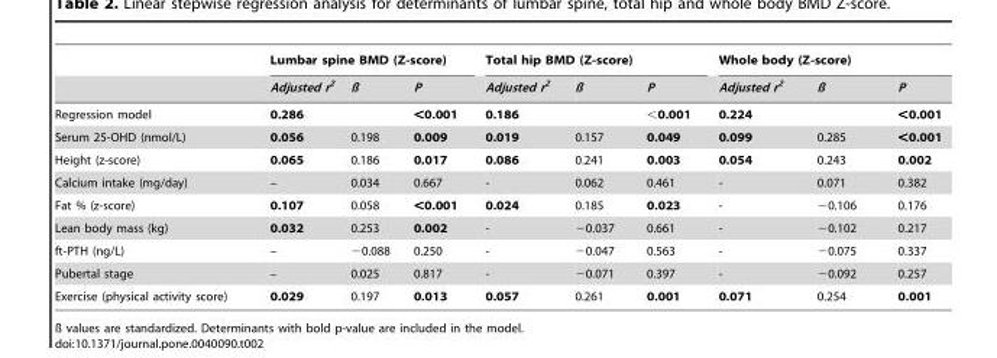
<table><thead><tr><td rowspan="2"></td><td colspan="3">Lumbar spine BMD (Z-score)</td><td colspan="3">Total hip BMD (Z-score)</td><td colspan="3">Whole body (Z-score)</td></tr><tr><td>Adjusted r<sup>2</sup></td><td>ß</td><td>P</td><td>Adjusted r<sup>2</sup></td><td>ß</td><td>P</td><td>Adjusted r<sup>2</sup></td><td>ß</td><td>P</td></tr></thead><tbody><tr><td>Regression model</td><td>0.286</td><td></td><td>&lt;0.001</td><td>0.186</td><td></td><td>&lt;0.001</td><td>0.224</td><td></td><td>&lt;0.001</td></tr><tr><td>Serum 25-OHD (nmol/L)</td><td>0.056</td><td>0.198</td><td>0.009</td><td>0.019</td><td>0.157</td><td>0.049</td><td>0.099</td><td>0.285</td><td>&lt;0.001</td></tr><tr><td>Height (z-score)</td><td>0.065</td><td>0.186</td><td>0.017</td><td>0.086</td><td>0.241</td><td>0.003</td><td>0.054</td><td>0.243</td><td>0.002</td></tr><tr><td>Calcium intake (mg/day)</td><td>–</td><td>0.034</td><td>0.667</td><td>-</td><td>0.062</td><td>0.461</td><td>-</td><td>0.071</td><td>0.382</td></tr><tr><td>Fat % (z-score)</td><td>0.107</td><td>0.058</td><td>&lt;0.001</td><td>0.024</td><td>0.185</td><td>0.023</td><td>-</td><td>−0.106</td><td>0.176</td></tr><tr><td>Lean body mass (kg)</td><td>0.032</td><td>0.253</td><td>0.002</td><td>-</td><td>−0.037</td><td>0.661</td><td>-</td><td>−0.102</td><td>0.217</td></tr><tr><td>ft-PTH (ng/L)</td><td>–</td><td>−0.088</td><td>0.250</td><td>-</td><td>−0.047</td><td>0.563</td><td>-</td><td>−0.075</td><td>0.337</td></tr><tr><td>Pubertal stage</td><td>–</td><td>0.025</td><td>0.817</td><td>-</td><td>−0.071</td><td>0.397</td><td>-</td><td>−0.092</td><td>0.257</td></tr><tr><td>Exercise (physical activity score)</td><td>0.029</td><td>0.197</td><td>0.013</td><td>0.057</td><td>0.261</td><td>0.001</td><td>0.071</td><td>0.254</td><td>0.001</td></tr></tbody></table>